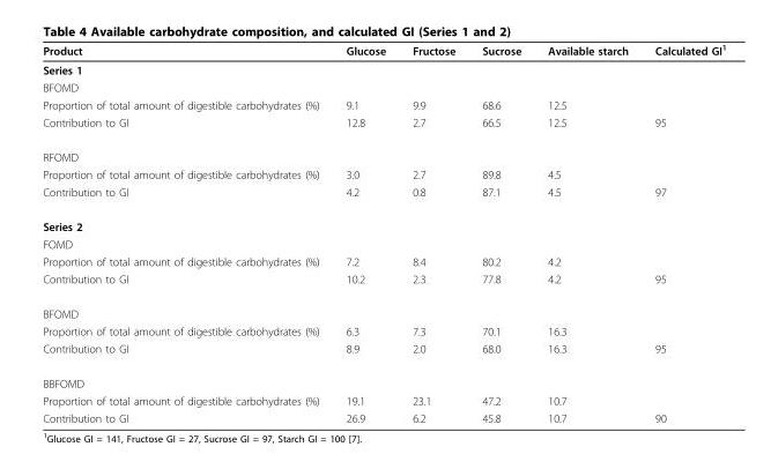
<table><thead><tr><td>Product</td><td>Glucose</td><td>Fructose</td><td>Sucrose</td><td>Available starch</td><td>Calculated GI<sup>1</sup></td></tr></thead><tbody><tr><td colspan="6">Series 1</td></tr><tr><td colspan="6">BFOMD</td></tr><tr><td>Proportion of total amount of digestible carbohydrates (%)</td><td>9.1</td><td>9.9</td><td>68.6</td><td>12.5</td><td></td></tr><tr><td>Contribution to GI</td><td>12.8</td><td>2.7</td><td>66.5</td><td>12.5</td><td>95</td></tr><tr><td colspan="6">RFOMD</td></tr><tr><td>Proportion of total amount of digestible carbohydrates (%)</td><td>3.0</td><td>2.7</td><td>89.8</td><td>4.5</td><td></td></tr><tr><td>Contribution to GI</td><td>4.2</td><td>0.8</td><td>87.1</td><td>4.5</td><td>97</td></tr><tr><td colspan="6">Series 2</td></tr><tr><td colspan="6">FOMD</td></tr><tr><td>Proportion of total amount of digestible carbohydrates (%)</td><td>7.2</td><td>8.4</td><td>80.2</td><td>4.2</td><td></td></tr><tr><td>Contribution to GI</td><td>10.2</td><td>2.3</td><td>77.8</td><td>4.2</td><td>95</td></tr><tr><td colspan="6">BFOMD</td></tr><tr><td>Proportion of total amount of digestible carbohydrates (%)</td><td>6.3</td><td>7.3</td><td>70.1</td><td>16.3</td><td></td></tr><tr><td>Contribution to GI</td><td>8.9</td><td>2.0</td><td>68.0</td><td>16.3</td><td>95</td></tr><tr><td colspan="6">BBFOMD</td></tr><tr><td>Proportion of total amount of digestible carbohydrates (%)</td><td>19.1</td><td>23.1</td><td>47.2</td><td>10.7</td><td></td></tr><tr><td>Contribution to GI</td><td>26.9</td><td>6.2</td><td>45.8</td><td>10.7</td><td>90</td></tr></tbody></table>